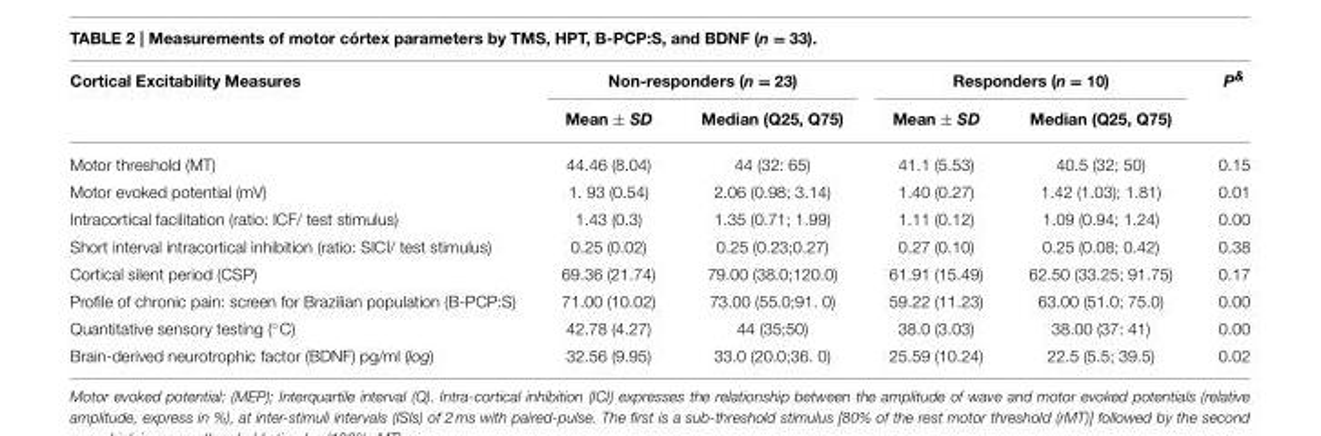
<table><thead><tr><td rowspan="2">Cortical Excitability Measures</td><td colspan="2">Non-responders (n = 23)</td><td colspan="2">Responders (n = 10)</td><td rowspan="2">P<sup>&amp;</sup></td></tr><tr><td>Mean ± SD</td><td>Median (Q25, Q75)</td><td>Mean ± SD</td><td>Median (Q25, Q75)</td></tr></thead><tbody><tr><td>Motor threshold (MT)</td><td>44.46 (8.04)</td><td>44 (32: 65)</td><td>41.1 (5.53)</td><td>40.5 (32; 50)</td><td>0.15</td></tr><tr><td>Motor evoked potential (mV)</td><td>1. 93 (0.54)</td><td>2.06 (0.98; 3.14)</td><td>1.40 (0.27)</td><td>1.42 (1.03); 1.81)</td><td>0.01</td></tr><tr><td>Intracortical facilitation (ratio: ICF/ test stimulus)</td><td>1.43 (0.3)</td><td>1.35 (0.71; 1.99)</td><td>1.11 (0.12)</td><td>1.09 (0.94; 1.24)</td><td>0.00</td></tr><tr><td>Short interval intracortical inhibition (ratio: SICI/ test stimulus)</td><td>0.25 (0.02)</td><td>0.25 (0.23;0.27)</td><td>0.27 (0.10)</td><td>0.25 (0.08; 0.42)</td><td>0.38</td></tr><tr><td>Cortical silent period (CSP)</td><td>69.36 (21.74)</td><td>79.00 (38.0;120.0)</td><td>61.91 (15.49)</td><td>62.50 (33.25; 91.75)</td><td>0.17</td></tr><tr><td>Profile of chronic pain: screen for Brazilian population (B-PCP:S)</td><td>71.00 (10.02)</td><td>73.00 (55.0;91. 0)</td><td>59.22 (11.23)</td><td>63.00 (51.0; 75.0)</td><td>0.00</td></tr><tr><td>Quantitative sensory testing (◦C)</td><td>42.78 (4.27)</td><td>44 (35;50)</td><td>38.0 (3.03)</td><td>38.00 (37: 41)</td><td>0.00</td></tr><tr><td>Brain-derived neurotrophic factor (BDNF) pg/ml (log)</td><td>32.56 (9.95)</td><td>33.0 (20.0;36. 0)</td><td>25.59 (10.24)</td><td>22.5 (5.5; 39.5)</td><td>0.02</td></tr></tbody></table>